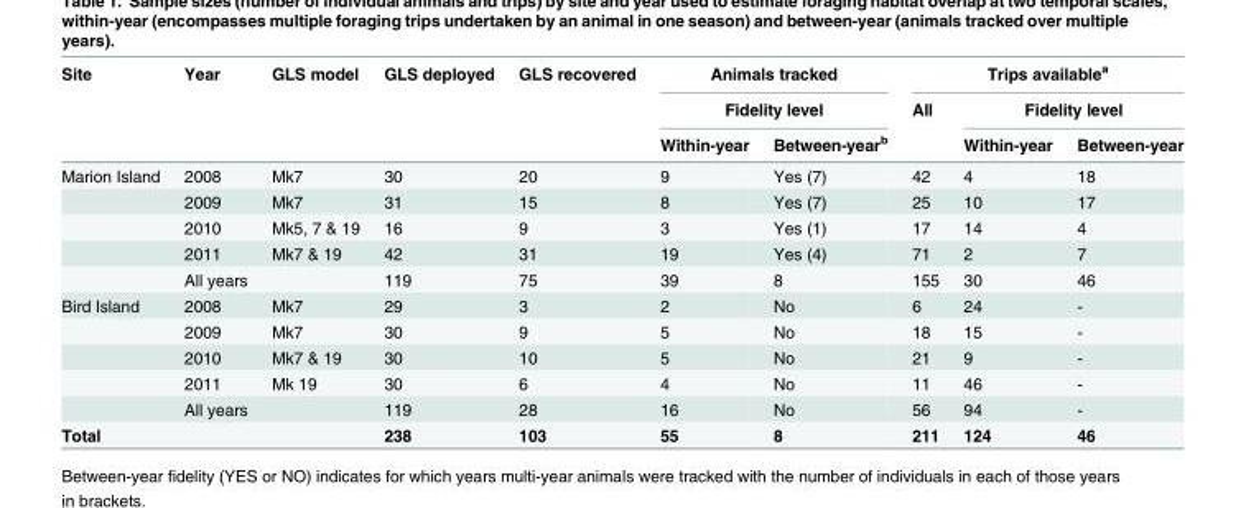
<table><thead><tr><td rowspan="3">Site</td><td rowspan="3">Year</td><td rowspan="3">GLS model</td><td rowspan="3">GLS deployed</td><td rowspan="3">GLS recovered</td><td rowspan="2" colspan="2">Animals tracked Fidelity level</td><td colspan="3">Trips available<sup>a</sup></td></tr><tr><td rowspan="2">All</td><td colspan="2">Fidelity level</td></tr><tr><td>Within-year</td><td>Between-year<sup>b</sup></td><td>Within-year</td><td>Between-year</td></tr></thead><tbody><tr><td rowspan="5">Marion Island</td><td>2008</td><td>Mk7</td><td>30</td><td>20</td><td>9</td><td>Yes (7)</td><td>42</td><td>4</td><td>18</td></tr><tr><td>2009</td><td>Mk7</td><td>31</td><td>15</td><td>8</td><td>Yes (7)</td><td>25</td><td>10</td><td>17</td></tr><tr><td>2010</td><td>Mk5, 7 &amp; 19</td><td>16</td><td>9</td><td>3</td><td>Yes (1)</td><td>17</td><td>14</td><td>4</td></tr><tr><td>2011</td><td>Mk7 &amp; 19</td><td>42</td><td>31</td><td>19</td><td>Yes (4)</td><td>71</td><td>2</td><td>7</td></tr><tr><td>All years</td><td></td><td>119</td><td>75</td><td>39</td><td>8</td><td>155</td><td>30</td><td>46</td></tr><tr><td rowspan="5">Bird Island</td><td>2008</td><td>Mk7</td><td>29</td><td>3</td><td>2</td><td>No</td><td>6</td><td>24</td><td>-</td></tr><tr><td>2009</td><td>Mk7</td><td>30</td><td>9</td><td>5</td><td>No</td><td>18</td><td>15</td><td>-</td></tr><tr><td>2010</td><td>Mk7 &amp; 19</td><td>30</td><td>10</td><td>5</td><td>No</td><td>21</td><td>9</td><td>-</td></tr><tr><td>2011</td><td>Mk 19</td><td>30</td><td>6</td><td>4</td><td>No</td><td>11</td><td>46</td><td>-</td></tr><tr><td>All years</td><td></td><td>119</td><td>28</td><td>16</td><td>No</td><td>56</td><td>94</td><td>-</td></tr><tr><td>Total</td><td></td><td></td><td>238</td><td>103</td><td>55</td><td>8</td><td>211</td><td>124</td><td>46</td></tr></tbody></table>